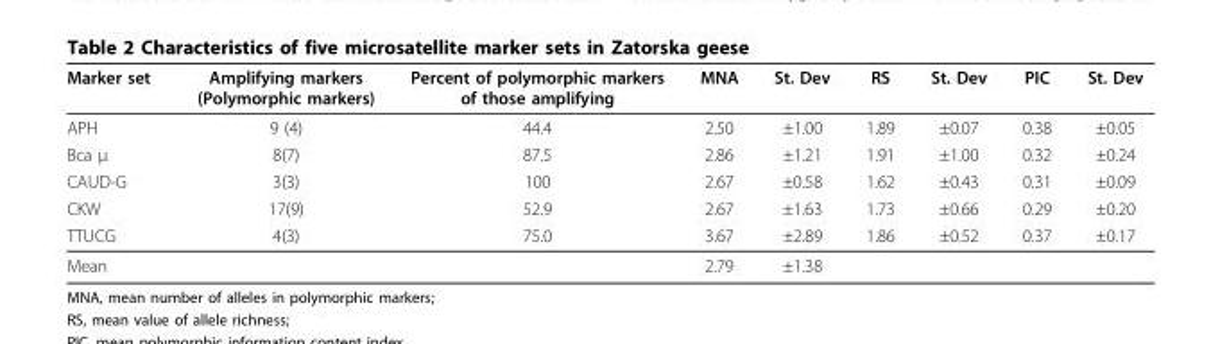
<table><thead><tr><td>Marker set</td><td>Amplifying markers (Polymorphic markers)</td><td>Percent of polymorphic markers of those amplifying</td><td>MNA</td><td>St. Dev</td><td>RS</td><td>St. Dev</td><td>PIC</td><td>St. Dev</td></tr></thead><tbody><tr><td>APH</td><td>9 (4)</td><td>44.4</td><td>2.50</td><td>±1.00</td><td>1.89</td><td>±0.07</td><td>0.38</td><td>±0.05</td></tr><tr><td>Bca μ</td><td>8(7)</td><td>87.5</td><td>2.86</td><td>±1.21</td><td>1.91</td><td>±1.00</td><td>0.32</td><td>±0.24</td></tr><tr><td>CAUD-G</td><td>3(3)</td><td>100</td><td>2.67</td><td>±0.58</td><td>1.62</td><td>±0.43</td><td>0.31</td><td>±0.09</td></tr><tr><td>CKW</td><td>17(9)</td><td>52.9</td><td>2.67</td><td>±1.63</td><td>1.73</td><td>±0.66</td><td>0.29</td><td>±0.20</td></tr><tr><td>TTUCG</td><td>4(3)</td><td>75.0</td><td>3.67</td><td>±2.89</td><td>1.86</td><td>±0.52</td><td>0.37</td><td>±0.17</td></tr><tr><td>Mean</td><td></td><td></td><td>2.79</td><td>±1.38</td><td></td><td></td><td></td><td></td></tr></tbody></table>